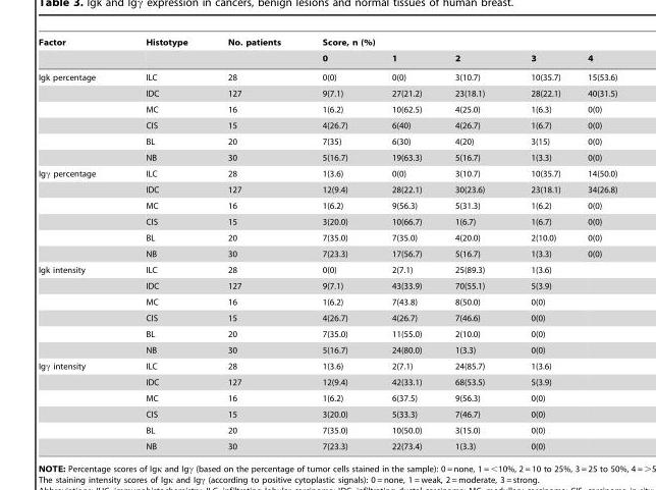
<table><thead><tr><td rowspan="2">Factor</td><td rowspan="2">Histotype</td><td rowspan="2">No. patients</td><td colspan="5">Score, n (%)</td></tr><tr><td>0</td><td>1</td><td>2</td><td>3</td><td>4</td></tr></thead><tbody><tr><td rowspan="6">Igk percentage</td><td>ILC</td><td>28</td><td>0(0)</td><td>0(0)</td><td>3(10.7)</td><td>10(35.7)</td><td>15(53.6)</td></tr><tr><td>IDC</td><td>127</td><td>9(7.1)</td><td>27(21.2)</td><td>23(18.1)</td><td>28(22.1)</td><td>40(31.5)</td></tr><tr><td>MC</td><td>16</td><td>1(6.2)</td><td>10(62.5)</td><td>4(25.0)</td><td>1(6.3)</td><td>0(0)</td></tr><tr><td>CIS</td><td>15</td><td>4(26.7)</td><td>6(40)</td><td>4(26.7)</td><td>1(6.7)</td><td>0(0)</td></tr><tr><td>BL</td><td>20</td><td>7(35)</td><td>6(30)</td><td>4(20)</td><td>3(15)</td><td>0(0)</td></tr><tr><td>NB</td><td>30</td><td>5(16.7)</td><td>19(63.3)</td><td>5(16.7)</td><td>1(3.3)</td><td>0(0)</td></tr><tr><td rowspan="6">Igγ percentage</td><td>ILC</td><td>28</td><td>1(3.6)</td><td>0(0)</td><td>3(10.7)</td><td>10(35.7)</td><td>14(50.0)</td></tr><tr><td>IDC</td><td>127</td><td>12(9.4)</td><td>28(22.1)</td><td>30(23.6)</td><td>23(18.1)</td><td>34(26.8)</td></tr><tr><td>MC</td><td>16</td><td>1(6.2)</td><td>9(56.3)</td><td>5(31.3)</td><td>1(6.2)</td><td>0(0)</td></tr><tr><td>CIS</td><td>15</td><td>3(20.0)</td><td>10(66.7)</td><td>1(6.7)</td><td>1(6.7)</td><td>0(0)</td></tr><tr><td>BL</td><td>20</td><td>7(35.0)</td><td>7(35.0)</td><td>4(20.0)</td><td>2(10.0)</td><td>0(0)</td></tr><tr><td>NB</td><td>30</td><td>7(23.3)</td><td>17(56.7)</td><td>5(16.7)</td><td>1(3.3)</td><td>0(0)</td></tr><tr><td rowspan="6">Igk intensity</td><td>ILC</td><td>28</td><td>0(0)</td><td>2(7.1)</td><td>25(89.3)</td><td>1(3.6)</td><td></td></tr><tr><td>IDC</td><td>127</td><td>9(7.1)</td><td>43(33.9)</td><td>70(55.1)</td><td>5(3.9)</td><td></td></tr><tr><td>MC</td><td>16</td><td>1(6.2)</td><td>7(43.8)</td><td>8(50.0)</td><td>0(0)</td><td></td></tr><tr><td>CIS</td><td>15</td><td>4(26.7)</td><td>4(26.7)</td><td>7(46.6)</td><td>0(0)</td><td></td></tr><tr><td>BL</td><td>20</td><td>7(35.0)</td><td>11(55.0)</td><td>2(10.0)</td><td>0(0)</td><td></td></tr><tr><td>NB</td><td>30</td><td>5(16.7)</td><td>24(80.0)</td><td>1(3.3)</td><td>0(0)</td><td></td></tr><tr><td rowspan="6">Igγ intensity</td><td>ILC</td><td>28</td><td>1(3.6)</td><td>2(7.1)</td><td>24(85.7)</td><td>1(3.6)</td><td></td></tr><tr><td>IDC</td><td>127</td><td>12(9.4)</td><td>42(33.1)</td><td>68(53.5)</td><td>5(3.9)</td><td></td></tr><tr><td>MC</td><td>16</td><td>1(6.2)</td><td>6(37.5)</td><td>9(56.3)</td><td>0(0)</td><td></td></tr><tr><td>CIS</td><td>15</td><td>3(20.0)</td><td>5(33.3)</td><td>7(46.7)</td><td>0(0)</td><td></td></tr><tr><td>BL</td><td>20</td><td>7(35.0)</td><td>10(50.0)</td><td>3(15.0)</td><td>0(0)</td><td></td></tr><tr><td>NB</td><td>30</td><td>7(23.3)</td><td>22(73.4)</td><td>1(3.3)</td><td>0(0)</td><td></td></tr></tbody></table>